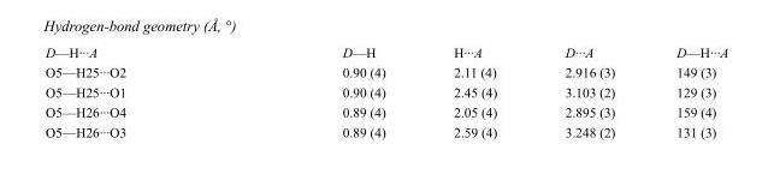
<table><tbody><tr><td>D—H···A</td><td>D—H</td><td>H···A</td><td>D···A</td><td>D—H···A</td></tr><tr><td>O5—H25···O2</td><td>0.90 (4)</td><td>2.11 (4)</td><td>2.916 (3)</td><td>149 (3)</td></tr><tr><td>O5—H25···O1</td><td>0.90 (4)</td><td>2.45 (4)</td><td>3.103 (2)</td><td>129 (3)</td></tr><tr><td>O5—H26···O4</td><td>0.89 (4)</td><td>2.05 (4)</td><td>2.895 (3)</td><td>159 (4)</td></tr><tr><td>O5—H26···O3</td><td>0.89 (4)</td><td>2.59 (4)</td><td>3.248 (2)</td><td>131 (3)</td></tr></tbody></table>